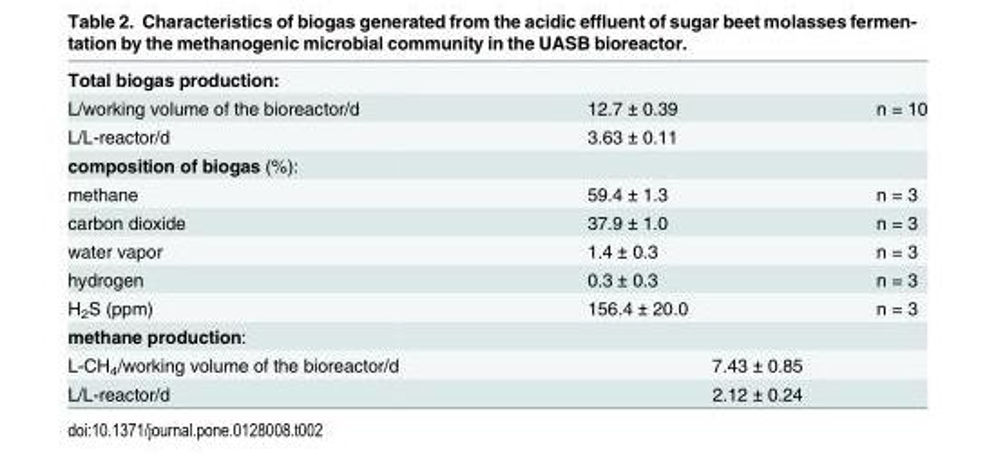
<table><tbody><tr><td colspan="3">Total biogas production:</td></tr><tr><td>L/working volume of the bioreactor/d</td><td>12.7 ± 0.39</td><td>n = 10</td></tr><tr><td>L/L-reactor/d</td><td>3.63 ± 0.11</td><td></td></tr><tr><td colspan="3">composition of biogas (%):</td></tr><tr><td>methane</td><td>59.4 ± 1.3</td><td>n = 3</td></tr><tr><td>carbon dioxide</td><td>37.9 ± 1.0</td><td>n = 3</td></tr><tr><td>water vapor</td><td>1.4 ± 0.3</td><td>n = 3</td></tr><tr><td>hydrogen</td><td>0.3 ± 0.3</td><td>n = 3</td></tr><tr><td>H<sub>2</sub>S (ppm)</td><td>156.4 ± 20.0</td><td>n = 3</td></tr><tr><td colspan="3">methane production:</td></tr><tr><td>L-CH<sub>4</sub>/working volume of the bioreactor/d</td><td colspan="2">7.43 ± 0.85</td></tr><tr><td>L/L-reactor/d</td><td colspan="2">2.12 ± 0.24</td></tr></tbody></table>